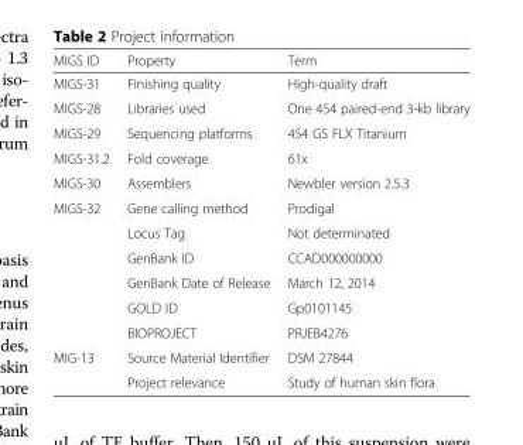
<table><thead><tr><td>MIGS ID</td><td>Property</td><td>Term</td></tr></thead><tbody><tr><td>MIGS-31</td><td>Finishing quality</td><td>High-quality draft</td></tr><tr><td>MIGS-28</td><td>Libraries used</td><td>One 454 paired-end 3-kb library</td></tr><tr><td>MIGS-29</td><td>Sequencing platforms</td><td>454 GS FLX Titanium</td></tr><tr><td>MIGS-31.2</td><td>Fold coverage</td><td>61x</td></tr><tr><td>MIGS-30</td><td>Assemblers</td><td>Newbler version 2.5.3</td></tr><tr><td rowspan="6">MIGS-32</td><td>Gene calling method</td><td>Prodigal</td></tr><tr><td>Locus Tag</td><td>Not determinated</td></tr><tr><td>GenBank ID</td><td>CCAD000000000</td></tr><tr><td>GenBank Date of Release</td><td>March 12, 2014</td></tr><tr><td>GOLD ID</td><td>Gp0101145</td></tr><tr><td>BIOPROJECT</td><td>PRJEB4276</td></tr><tr><td rowspan="2">MIG-13</td><td>Source Material Identifier</td><td>DSM 27844</td></tr><tr><td>Project relevance</td><td>Study of human skin flora</td></tr></tbody></table>